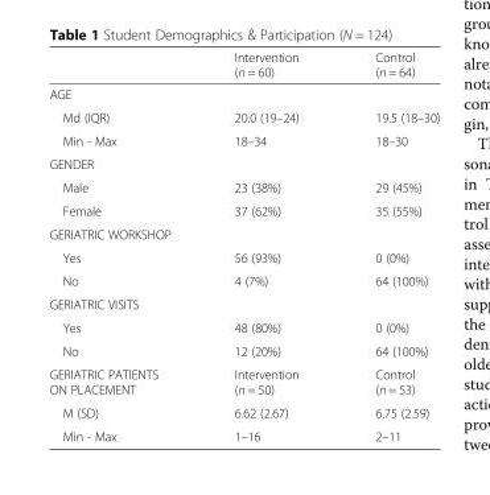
<table><thead><tr><td></td><td>Intervention (n = 60)</td><td>Control (n = 64)</td></tr></thead><tbody><tr><td colspan="3">AGE</td></tr><tr><td>Md (IQR)</td><td>20.0 (19–24)</td><td>19.5 (18–30)</td></tr><tr><td>Min - Max</td><td>18–34</td><td>18–30</td></tr><tr><td colspan="3">GENDER</td></tr><tr><td>Male</td><td>23 (38%)</td><td>29 (45%)</td></tr><tr><td>Female</td><td>37 (62%)</td><td>35 (55%)</td></tr><tr><td colspan="3">GERIATRIC WORKSHOP</td></tr><tr><td>Yes</td><td>56 (93%)</td><td>0 (0%)</td></tr><tr><td>No</td><td>4 (7%)</td><td>64 (100%)</td></tr><tr><td colspan="3">GERIATRIC VISITS</td></tr><tr><td>Yes</td><td>48 (80%)</td><td>0 (0%)</td></tr><tr><td>No</td><td>12 (20%)</td><td>64 (100%)</td></tr><tr><td>GERIATRIC PATIENTS ON PLACEMENT</td><td>Intervention (n = 50)</td><td>Control (n = 53)</td></tr><tr><td>M (SD)</td><td>6.62 (2.67)</td><td>6.75 (2.59)</td></tr><tr><td>Min - Max</td><td>1–16</td><td>2–11</td></tr></tbody></table>